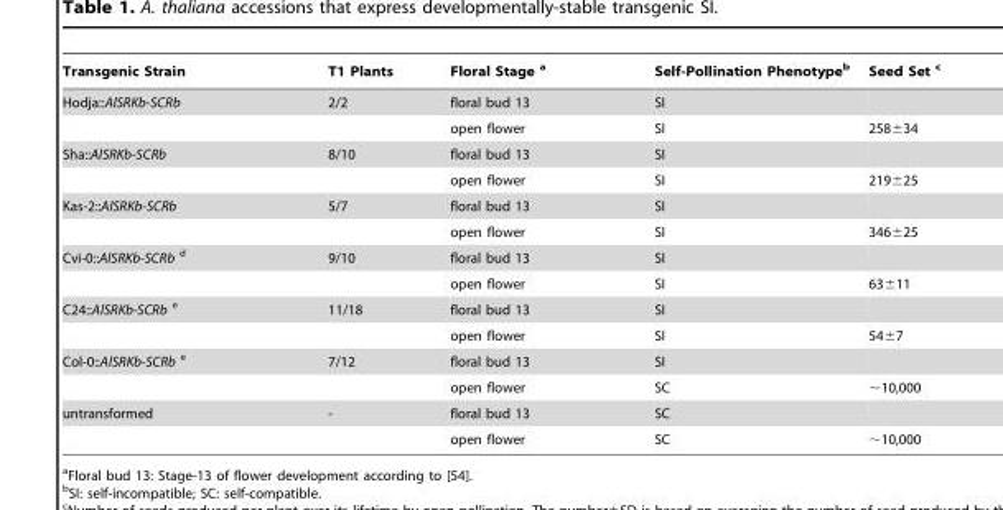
<table><thead><tr><td>Transgenic Strain</td><td>T1 Plants</td><td>Floral Stage a</td><td>Self-Pollination Phenotype<sup>b</sup></td><td>Seed Set c</td></tr></thead><tbody><tr><td rowspan="2">Hodja::AlSRKb-SCRb</td><td>2/2</td><td>floral bud 13</td><td>SI</td><td></td></tr><tr><td></td><td>open flower</td><td>SI</td><td>258±34</td></tr><tr><td rowspan="2">Sha::AlSRKb-SCRb</td><td>8/10</td><td>floral bud 13</td><td>SI</td><td></td></tr><tr><td></td><td>open flower</td><td>SI</td><td>219±25</td></tr><tr><td rowspan="2">Kas-2::AlSRKb-SCRb</td><td>5/7</td><td>floral bud 13</td><td>SI</td><td></td></tr><tr><td></td><td>open flower</td><td>SI</td><td>346±25</td></tr><tr><td rowspan="2">Cvi-0::AlSRKb-SCRb d</td><td>9/10</td><td>floral bud 13</td><td>SI</td><td></td></tr><tr><td></td><td>open flower</td><td>SI</td><td>63±11</td></tr><tr><td rowspan="2">C24::AlSRKb-SCRb e</td><td>11/18</td><td>floral bud 13</td><td>SI</td><td></td></tr><tr><td></td><td>open flower</td><td>SI</td><td>54±7</td></tr><tr><td rowspan="2">Col-0::AlSRKb-SCRb e</td><td>7/12</td><td>floral bud 13</td><td>SI</td><td></td></tr><tr><td></td><td>open flower</td><td>SC</td><td>∼10,000</td></tr><tr><td rowspan="2">untransformed</td><td>-</td><td>floral bud 13</td><td>SC</td><td></td></tr><tr><td></td><td>open flower</td><td>SC</td><td>∼10,000</td></tr></tbody></table>